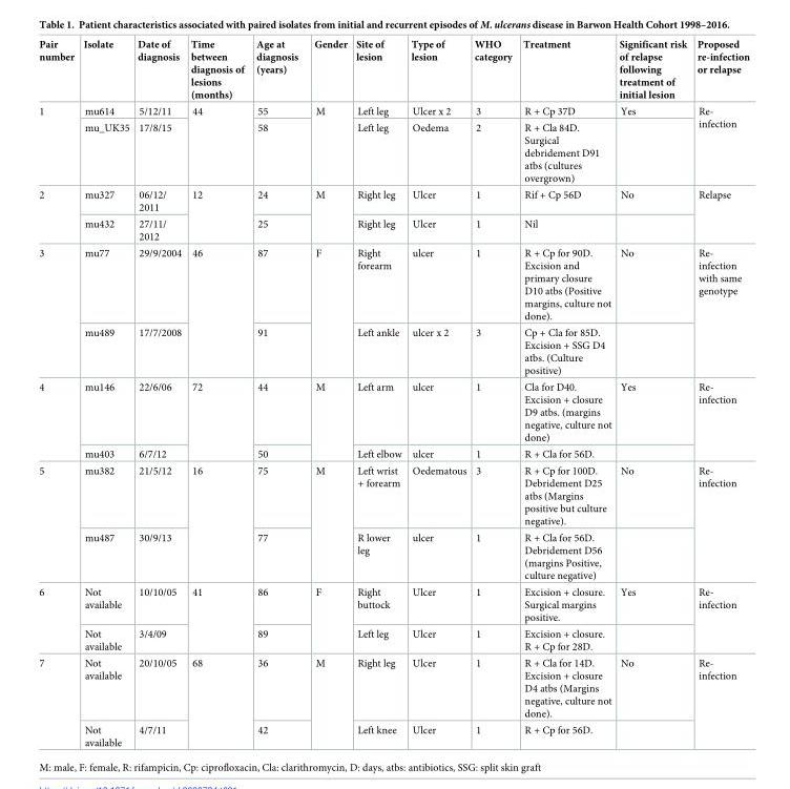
<table><thead><tr><td>Pair number</td><td>Isolate</td><td>Date of diagnosis</td><td>Time between diagnosis of lesions (months)</td><td>Age at diagnosis (years)</td><td>Gender</td><td>Site of lesion</td><td>Type of lesion</td><td>WHO category</td><td>Treatment</td><td>Significant risk of relapse following treatment of initial lesion</td><td>Proposed re-infection or relapse</td></tr></thead><tbody><tr><td rowspan="2">1</td><td>mu614</td><td>5/12/11</td><td rowspan="2">44</td><td>55</td><td rowspan="2">M</td><td>Left leg</td><td>Ulcer x 2</td><td>3</td><td>R + Cp 37D</td><td>Yes</td><td rowspan="2">Re- infection</td></tr><tr><td>mu_UK35</td><td>17/8/15</td><td>58</td><td>Left leg</td><td>Oedema</td><td>2</td><td>R + Cla 84D. Surgical debridement D91 atbs (cultures overgrown)</td><td></td></tr><tr><td rowspan="2">2</td><td>mu327</td><td>06/12/ 2011</td><td rowspan="2">12</td><td>24</td><td rowspan="2">M</td><td>Right leg</td><td>Ulcer</td><td>1</td><td>Rif + Cp 56D</td><td>No</td><td rowspan="2">Relapse</td></tr><tr><td>mu432</td><td>27/11/ 2012</td><td>25</td><td>Right leg</td><td>Ulcer</td><td>1</td><td>Nil</td><td></td></tr><tr><td rowspan="2">3</td><td>mu77</td><td>29/9/2004</td><td rowspan="2">46</td><td>87</td><td rowspan="2">F</td><td>Right forearm</td><td>ulcer</td><td>1</td><td>R + Cp for 90D. Excision and primary closure D10 atbs (Positive margins, culture not done).</td><td>No</td><td rowspan="2">Re- infection with same genotype</td></tr><tr><td>mu489</td><td>17/7/2008</td><td>91</td><td>Left ankle</td><td>ulcer x 2</td><td>3</td><td>Cp + Cla for 85D. Excision + SSG D4 atbs. (Culture positive)</td><td></td></tr><tr><td rowspan="2">4</td><td>mu146</td><td>22/6/06</td><td rowspan="2">72</td><td>44</td><td rowspan="2">M</td><td>Left arm</td><td>ulcer</td><td>1</td><td>Cla for D40. Excision + closure D9 atbs. (margins negative, culture not done)</td><td>Yes</td><td rowspan="2">Re- infection</td></tr><tr><td>mu403</td><td>6/7/12</td><td>50</td><td>Left elbow</td><td>ulcer</td><td>1</td><td>R + Cla for 56D.</td><td></td></tr><tr><td rowspan="2">5</td><td>mu382</td><td>21/5/12</td><td rowspan="2">16</td><td>75</td><td rowspan="2">M</td><td>Left wrist + forearm</td><td>Oedematous</td><td>3</td><td>R + Cp for 100D. Debridement D25 atbs (Margins positive but culture negative).</td><td>No</td><td rowspan="2">Re- infection</td></tr><tr><td>mu487</td><td>30/9/13</td><td>77</td><td>R lower leg</td><td>ulcer</td><td>1</td><td>R + Cla for 56D. Debridement D56 (margins Positive, culture negative)</td><td></td></tr><tr><td rowspan="2">6</td><td>Not available</td><td>10/10/05</td><td rowspan="2">41</td><td>86</td><td rowspan="2">F</td><td>Right buttock</td><td>Ulcer</td><td>1</td><td>Excision + closure. Surgical margins positive.</td><td>Yes</td><td rowspan="2">Re- infection</td></tr><tr><td>Not available</td><td>3/4/09</td><td>89</td><td>Left leg</td><td>Ulcer</td><td>1</td><td>Excision + closure. R + Cp for 28D.</td><td></td></tr><tr><td rowspan="2">7</td><td>Not available</td><td>20/10/05</td><td rowspan="2">68</td><td>36</td><td rowspan="2">M</td><td>Right leg</td><td>Ulcer</td><td>1</td><td>R + Cla for 14D. Excision + closure D4 atbs (Margins negative, culture not done).</td><td>No</td><td rowspan="2">Re- infection</td></tr><tr><td>Not available</td><td>4/7/11</td><td>42</td><td>Left knee</td><td>Ulcer</td><td>1</td><td>R + Cp for 56D.</td><td></td></tr></tbody></table>